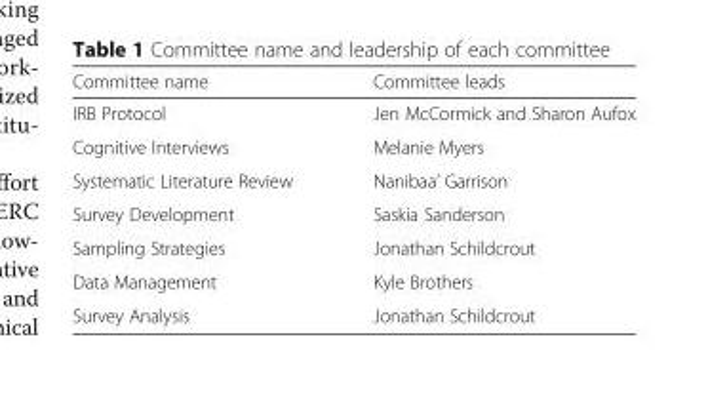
<table><thead><tr><td>Committee name</td><td>Committee leads</td></tr></thead><tbody><tr><td>IRB Protocol</td><td>Jen McCormick and Sharon Aufox</td></tr><tr><td>Cognitive Interviews</td><td>Melanie Myers</td></tr><tr><td>Systematic Literature Review</td><td>Nanibaa’ Garrison</td></tr><tr><td>Survey Development</td><td>Saskia Sanderson</td></tr><tr><td>Sampling Strategies</td><td>Jonathan Schildcrout</td></tr><tr><td>Data Management</td><td>Kyle Brothers</td></tr><tr><td>Survey Analysis</td><td>Jonathan Schildcrout</td></tr></tbody></table>